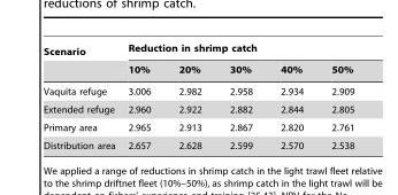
<table><thead><tr><td rowspan="2">Scenario</td><td colspan="5">Reduction in shrimp catch</td></tr><tr><td>10%</td><td>20%</td><td>30%</td><td>40%</td><td>50%</td></tr></thead><tbody><tr><td>Vaquita refuge</td><td>3.006</td><td>2.982</td><td>2.958</td><td>2.934</td><td>2.909</td></tr><tr><td>Extended refuge</td><td>2.960</td><td>2.922</td><td>2.882</td><td>2.844</td><td>2.805</td></tr><tr><td>Primary area</td><td>2.965</td><td>2.913</td><td>2.867</td><td>2.820</td><td>2.761</td></tr><tr><td>Distribution area</td><td>2.657</td><td>2.628</td><td>2.599</td><td>2.570</td><td>2.538</td></tr></tbody></table>